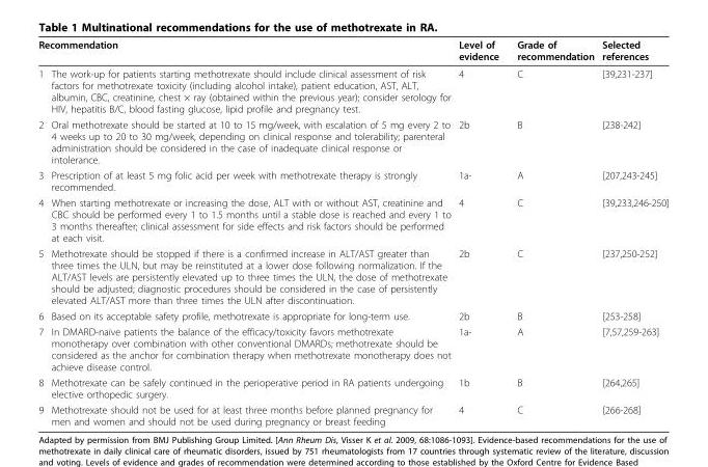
<table><thead><tr><td colspan="2">Recommendation</td><td rowspan="2">Level of evidence 4</td><td rowspan="2">Grade of recommendation C</td><td rowspan="2">Selected references [39,231-237]</td></tr><tr><td>1</td><td>The work-up for patients starting methotrexate should include clinical assessment of risk factors for methotrexate toxicity (including alcohol intake), patient education, AST, ALT, albumin, CBC, creatinine, chest × ray (obtained within the previous year); consider serology for HIV, hepatitis B/C, blood fasting glucose, lipid profile and pregnancy test.</td></tr></thead><tbody><tr><td>2</td><td>Oral methotrexate should be started at 10 to 15 mg/week, with escalation of 5 mg every 2 to 4 weeks up to 20 to 30 mg/week, depending on clinical response and tolerability; parenteral administration should be considered in the case of inadequate clinical response or intolerance.</td><td>2b</td><td>B</td><td>[238-242]</td></tr><tr><td>3</td><td>Prescription of at least 5 mg folic acid per week with methotrexate therapy is strongly recommended.</td><td>1a-</td><td>A</td><td>[207,243-245]</td></tr><tr><td>4</td><td>When starting methotrexate or increasing the dose, ALT with or without AST, creatinine and CBC should be performed every 1 to 1.5 months until a stable dose is reached and every 1 to 3 months thereafter; clinical assessment for side effects and risk factors should be performed at each visit.</td><td>4</td><td>C</td><td>[39,233,246-250]</td></tr><tr><td>5</td><td>Methotrexate should be stopped if there is a confirmed increase in ALT/AST greater than three times the ULN, but may be reinstituted at a lower dose following normalization. If the ALT/AST levels are persistently elevated up to three times the ULN, the dose of methotrexate should be adjusted; diagnostic procedures should be considered in the case of persistently elevated ALT/AST more than three times the ULN after discontinuation.</td><td>2b</td><td>C</td><td>[237,250-252]</td></tr><tr><td>6</td><td>Based on its acceptable safety profile, methotrexate is appropriate for long-term use.</td><td>2b</td><td>B</td><td>[253-258]</td></tr><tr><td>7</td><td>In DMARD-naïve patients the balance of the efficacy/toxicity favors methotrexate monotherapy over combination with other conventional DMARDs; methotrexate should be considered as the anchor for combination therapy when methotrexate monotherapy does not achieve disease control.</td><td>1a-</td><td>A</td><td>[7,57,259-263]</td></tr><tr><td>8</td><td>Methotrexate can be safely continued in the perioperative period in RA patients undergoing elective orthopedic surgery.</td><td>1b</td><td>B</td><td>[264,265]</td></tr><tr><td>9</td><td>Methotrexate should not be used for at least three months before planned pregnancy for men and women and should not be used during pregnancy or breast feeding</td><td>4</td><td>C</td><td>[266-268]</td></tr></tbody></table>